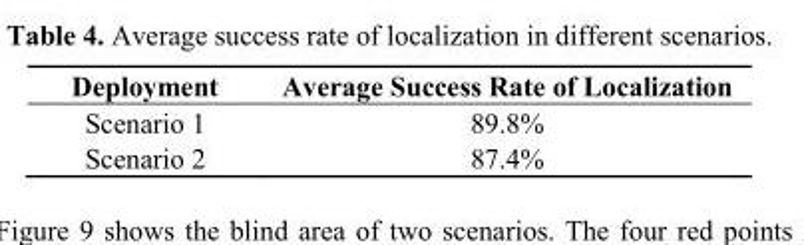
<table><thead><tr><td>Deployment</td><td>Average Success Rate of Localization</td></tr></thead><tbody><tr><td>Scenario 1</td><td>89.8%</td></tr><tr><td>Scenario 2</td><td>87.4%</td></tr></tbody></table>